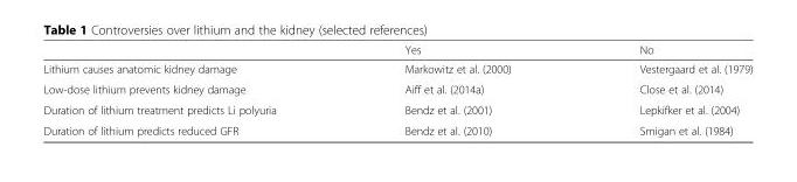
<table><thead><tr><td></td><td>Yes</td><td>No</td></tr></thead><tbody><tr><td>Lithium causes anatomic kidney damage</td><td>Markowitz et al. (2000)</td><td>Vestergaard et al. (1979)</td></tr><tr><td>Low-dose lithium prevents kidney damage</td><td>Aiff et al. (2014a)</td><td>Close et al. (2014)</td></tr><tr><td>Duration of lithium treatment predicts Li polyuria</td><td>Bendz et al. (2001)</td><td>Lepkifker et al. (2004)</td></tr><tr><td>Duration of lithium predicts reduced GFR</td><td>Bendz et al. (2010)</td><td>Smigan et al. (1984)</td></tr></tbody></table>